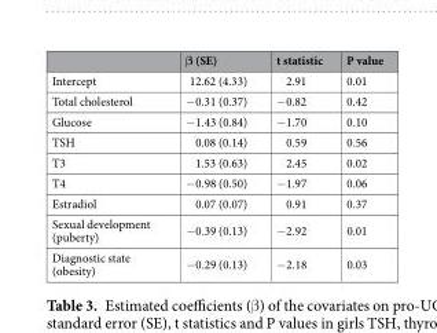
<table><thead><tr><td></td><td>β (SE)</td><td>t statistic</td><td>P value</td></tr></thead><tbody><tr><td>Intercept</td><td>12.62 (4.33)</td><td>2.91</td><td>0.01</td></tr><tr><td>Total cholesterol</td><td>−0.31 (0.37)</td><td>−0.82</td><td>0.42</td></tr><tr><td>Glucose</td><td>−1.43 (0.84)</td><td>−1.70</td><td>0.10</td></tr><tr><td>TSH</td><td>0.08 (0.14)</td><td>0.59</td><td>0.56</td></tr><tr><td>T3</td><td>1.53 (0.63)</td><td>2.45</td><td>0.02</td></tr><tr><td>T4</td><td>−0.98 (0.50)</td><td>−1.97</td><td>0.06</td></tr><tr><td>Estradiol</td><td>0.07 (0.07)</td><td>0.91</td><td>0.37</td></tr><tr><td>Sexual development (puberty)</td><td>−0.39 (0.13)</td><td>−2.92</td><td>0.01</td></tr><tr><td>Diagnostic state (obesity)</td><td>−0.29 (0.13)</td><td>−2.18</td><td>0.03</td></tr></tbody></table>